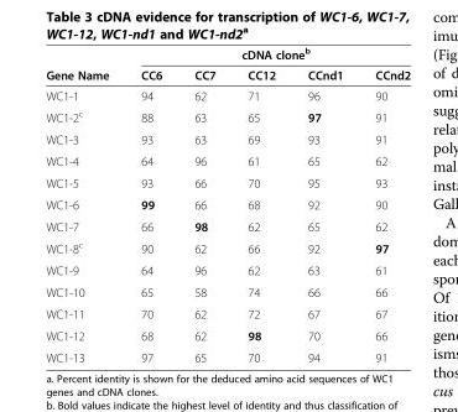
<table><thead><tr><td rowspan="2">Gene Name</td><td colspan="5">cDNA clone<sup>b</sup></td></tr><tr><td>CC6</td><td>CC7</td><td>CC12</td><td>CCnd1</td><td>CCnd2</td></tr></thead><tbody><tr><td>WC1-1</td><td>94</td><td>62</td><td>71</td><td>96</td><td>90</td></tr><tr><td>WC1-2<sup>c</sup></td><td>88</td><td>63</td><td>65</td><td>97</td><td>91</td></tr><tr><td>WC1-3</td><td>93</td><td>63</td><td>69</td><td>93</td><td>91</td></tr><tr><td>WC1-4</td><td>64</td><td>96</td><td>61</td><td>65</td><td>62</td></tr><tr><td>WC1-5</td><td>93</td><td>66</td><td>70</td><td>95</td><td>93</td></tr><tr><td>WC1-6</td><td>99</td><td>66</td><td>68</td><td>92</td><td>90</td></tr><tr><td>WC1-7</td><td>66</td><td>98</td><td>62</td><td>65</td><td>62</td></tr><tr><td>WC1-8<sup>c</sup></td><td>90</td><td>62</td><td>66</td><td>92</td><td>97</td></tr><tr><td>WC1-9</td><td>64</td><td>96</td><td>62</td><td>63</td><td>61</td></tr><tr><td>WC1-10</td><td>65</td><td>58</td><td>74</td><td>66</td><td>66</td></tr><tr><td>WC1-11</td><td>70</td><td>62</td><td>72</td><td>67</td><td>67</td></tr><tr><td>WC1-12</td><td>68</td><td>62</td><td>98</td><td>70</td><td>66</td></tr><tr><td>WC1-13</td><td>97</td><td>65</td><td>70</td><td>94</td><td>91</td></tr></tbody></table>